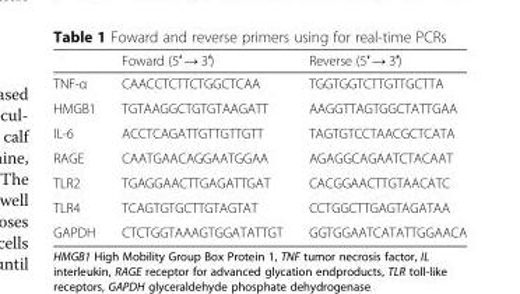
<table><thead><tr><td></td><td>Foward (5′ → 3′)</td><td>Reverse (5′ → 3′)</td></tr></thead><tbody><tr><td>TNF-α</td><td>CAACCTCTTCTGGCTCAA</td><td>TGGTGGTCTTGTTGCTTA</td></tr><tr><td>HMGB1</td><td>TGTAAGGCTGTGTAAGATT</td><td>AAGGTTAGTGGCTATTGAA</td></tr><tr><td>IL-6</td><td>ACCTCAGATTGTTGTTGTT</td><td>TAGTGTCCTAACGCTCATA</td></tr><tr><td>RAGE</td><td>CAATGAACAGGAATGGAA</td><td>AGAGGCAGAATCTACAAT</td></tr><tr><td>TLR2</td><td>TGAGGAACTTGAGATTGAT</td><td>CACGGAACTTGTAACATC</td></tr><tr><td>TLR4</td><td>TCAGTGTGCTTGTAGTAT</td><td>CCTGGCTTGAGTAGATAA</td></tr><tr><td>GAPDH</td><td>CTCTGGTAAAGTGGATATTGT</td><td>GGTGGAATCATATTGGAACA</td></tr></tbody></table>